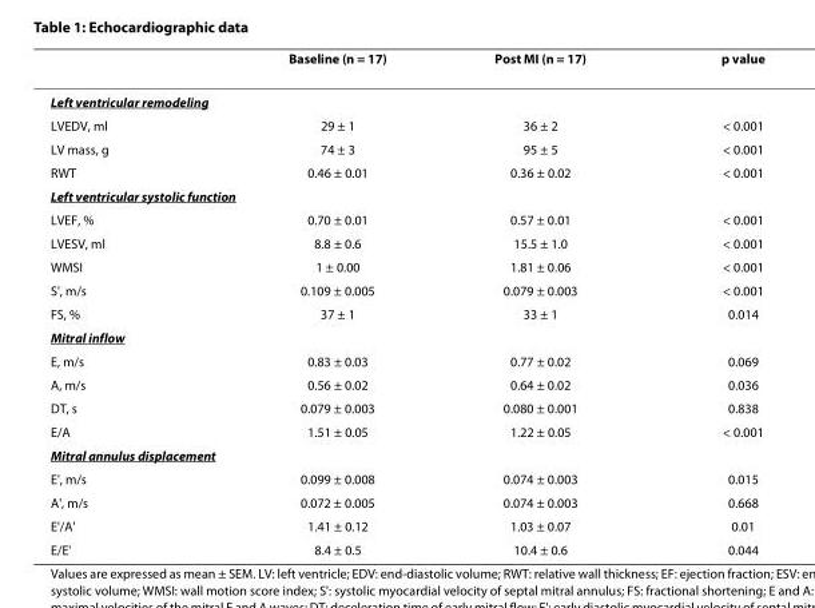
<table><thead><tr><td></td><td>Baseline (n = 17)</td><td>Post MI (n = 17)</td><td>p value</td></tr></thead><tbody><tr><td colspan="4">Left ventricular remodeling</td></tr><tr><td>LVEDV, ml</td><td>29 ± 1</td><td>36 ± 2</td><td>&lt; 0.001</td></tr><tr><td>LV mass, g</td><td>74 ± 3</td><td>95 ± 5</td><td>&lt; 0.001</td></tr><tr><td>RWT</td><td>0.46 ± 0.01</td><td>0.36 ± 0.02</td><td>&lt; 0.001</td></tr><tr><td colspan="4">Left ventricular systolic function</td></tr><tr><td>LVEF, %</td><td>0.70 ± 0.01</td><td>0.57 ± 0.01</td><td>&lt; 0.001</td></tr><tr><td>LVESV, ml</td><td>8.8 ± 0.6</td><td>15.5 ± 1.0</td><td>&lt; 0.001</td></tr><tr><td>WMSI</td><td>1 ± 0.00</td><td>1.81 ± 0.06</td><td>&lt; 0.001</td></tr><tr><td>S&#x27;, m/s</td><td>0.109 ± 0.005</td><td>0.079 ± 0.003</td><td>&lt; 0.001</td></tr><tr><td>FS, %</td><td>37 ± 1</td><td>33 ± 1</td><td>0.014</td></tr><tr><td colspan="4">Mitral inflow</td></tr><tr><td>E, m/s</td><td>0.83 ± 0.03</td><td>0.77 ± 0.02</td><td>0.069</td></tr><tr><td>A, m/s</td><td>0.56 ± 0.02</td><td>0.64 ± 0.02</td><td>0.036</td></tr><tr><td>DT, s</td><td>0.079 ± 0.003</td><td>0.080 ± 0.001</td><td>0.838</td></tr><tr><td>E/A</td><td>1.51 ± 0.05</td><td>1.22 ± 0.05</td><td>&lt; 0.001</td></tr><tr><td colspan="4">Mitral annulus displacement</td></tr><tr><td>E&#x27;, m/s</td><td>0.099 ± 0.008</td><td>0.074 ± 0.003</td><td>0.015</td></tr><tr><td>A&#x27;, m/s</td><td>0.072 ± 0.005</td><td>0.074 ± 0.003</td><td>0.668</td></tr><tr><td>E&#x27;/A&#x27;</td><td>1.41 ± 0.12</td><td>1.03 ± 0.07</td><td>0.01</td></tr><tr><td>E/E&#x27;</td><td>8.4 ± 0.5</td><td>10.4 ± 0.6</td><td>0.044</td></tr></tbody></table>